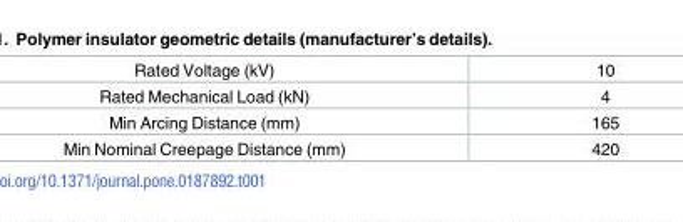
<table><tbody><tr><td>Rated Voltage (kV)</td><td>10</td></tr><tr><td>Rated Mechanical Load (kN)</td><td>4</td></tr><tr><td>Min Arcing Distance (mm)</td><td>165</td></tr><tr><td>Min Nominal Creepage Distance (mm)</td><td>420</td></tr></tbody></table>